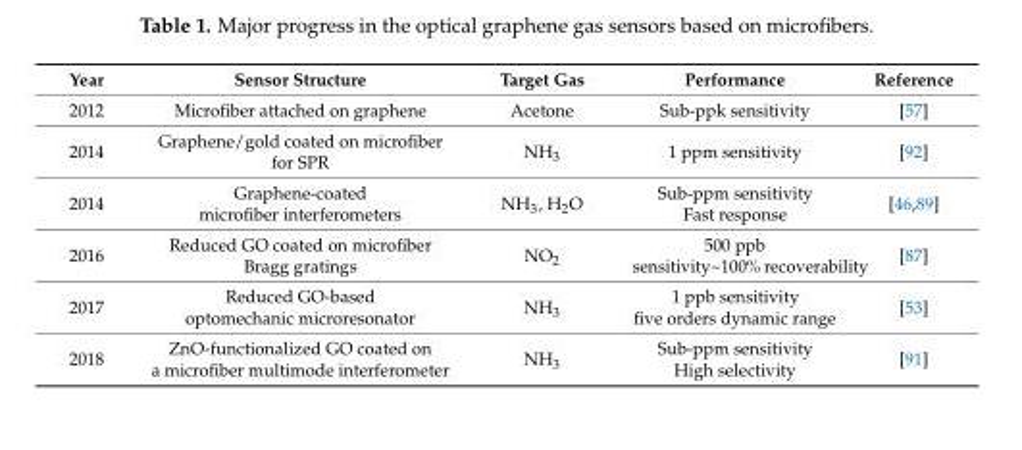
<table><thead><tr><td>Year</td><td>Sensor Structure</td><td>Target Gas</td><td>Performance</td><td>Reference</td></tr></thead><tbody><tr><td>2012</td><td>Microfiber attached on graphene</td><td>Acetone</td><td>Sub-ppk sensitivity</td><td>[57]</td></tr><tr><td>2014</td><td>Graphene/gold coated on microfiber for SPR</td><td>NH<sub>3</sub></td><td>1 ppm sensitivity</td><td>[92]</td></tr><tr><td>2014</td><td>Graphene-coated microfiber interferometers</td><td>NH<sub>3</sub>, H<sub>2</sub>O</td><td>Sub-ppm sensitivity Fast response</td><td>[46,89]</td></tr><tr><td>2016</td><td>Reduced GO coated on microfiber Bragg gratings</td><td>NO<sub>2</sub></td><td>500 ppb sensitivity~100% recoverability</td><td>[87]</td></tr><tr><td>2017</td><td>Reduced GO-based optomechanic microresonator</td><td>NH<sub>3</sub></td><td>1 ppb sensitivity five orders dynamic range</td><td>[53]</td></tr><tr><td>2018</td><td>ZnO-functionalized GO coated on a microfiber multimode interferometer</td><td>NH<sub>3</sub></td><td>Sub-ppm sensitivity High selectivity</td><td>[91]</td></tr></tbody></table>